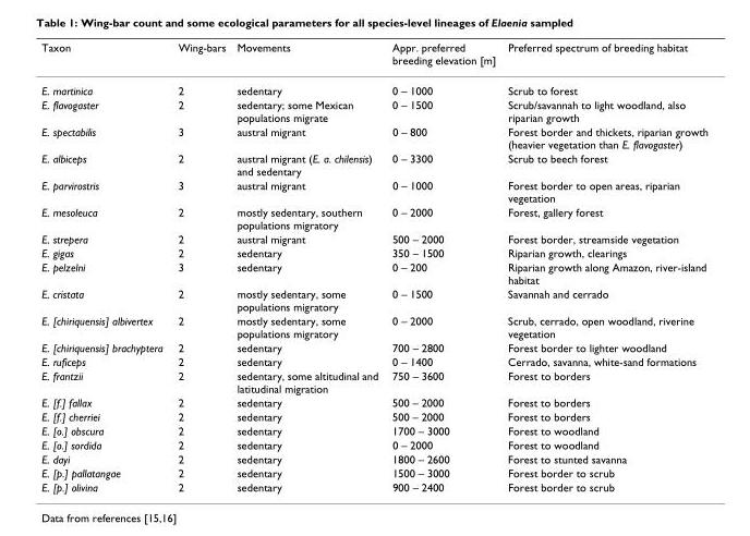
<table><thead><tr><td>Taxon</td><td>Wing-bars</td><td>Movements</td><td>Appr. preferred breeding elevation [m]</td><td>Preferred spectrum of breeding habitat</td></tr></thead><tbody><tr><td>E. martinica</td><td>2</td><td>sedentary</td><td>0 – 1000</td><td>Scrub to forest</td></tr><tr><td>E. flavogaster</td><td>2</td><td>sedentary; some Mexican populations migrate</td><td>0 – 1500</td><td>Scrub/savannah to light woodland, also riparian growth</td></tr><tr><td>E. spectabilis</td><td>3</td><td>austral migrant</td><td>0 – 800</td><td>Forest border and thickets, riparian growth (heavier vegetation than E. flavogaster)</td></tr><tr><td>E. albiceps</td><td>2</td><td>austral migrant (E. a. chilensis) and sedentary</td><td>0 – 3300</td><td>Scrub to beech forest</td></tr><tr><td>E. parvirostris</td><td>3</td><td>austral migrant</td><td>0 – 1000</td><td>Forest border to open areas, riparian vegetation</td></tr><tr><td>E. mesoleuca</td><td>2</td><td>mostly sedentary, southern populations migratory</td><td>0 – 2000</td><td>Forest, gallery forest</td></tr><tr><td>E. strepera</td><td>2</td><td>austral migrant</td><td>500 – 2000</td><td>Forest border, streamside vegetation</td></tr><tr><td>E. gigas</td><td>2</td><td>sedentary</td><td>350 – 1500</td><td>Riparian growth, clearings</td></tr><tr><td>E. pelzelni</td><td>3</td><td>sedentary</td><td>0 – 200</td><td>Riparian growth along Amazon, river-island habitat</td></tr><tr><td>E. cristata</td><td>2</td><td>mostly sedentary, some populations migratory</td><td>0 – 1500</td><td>Savannah and cerrado</td></tr><tr><td>E. [chiriquensis] albivertex</td><td>2</td><td>mostly sedentary, some populations migratory</td><td>0 – 2000</td><td>Scrub, cerrado, open woodland, riverine vegetation</td></tr><tr><td>E. [chiriquensis] brachyptera</td><td>2</td><td>sedentary</td><td>700 – 2800</td><td>Forest border to lighter woodland</td></tr><tr><td>E. ruficeps</td><td>2</td><td>sedentary</td><td>0 – 1400</td><td>Cerrado, savanna, white-sand formations</td></tr><tr><td>E. frantzii</td><td>2</td><td>sedentary, some altitudinal and latitudinal migration</td><td>750 – 3600</td><td>Forest to borders</td></tr><tr><td>E. [f.] fallax</td><td>2</td><td>sedentary</td><td>500 – 2000</td><td>Forest to borders</td></tr><tr><td>E. [f.] cherriei</td><td>2</td><td>sedentary</td><td>500 – 2000</td><td>Forest to borders</td></tr><tr><td>E. [o.] obscura</td><td>2</td><td>sedentary</td><td>1700 – 3000</td><td>Forest to woodland</td></tr><tr><td>E. [o.] sordida</td><td>2</td><td>sedentary</td><td>0 – 2000</td><td>Forest to woodland</td></tr><tr><td>E. dayi</td><td>2</td><td>sedentary</td><td>1800 – 2600</td><td>Forest to stunted savanna</td></tr><tr><td>E. [p.] pallatangae</td><td>2</td><td>sedentary</td><td>1500 – 3000</td><td>Forest border to scrub</td></tr><tr><td>E. [p.] olivina</td><td>2</td><td>sedentary</td><td>900 – 2400</td><td>Forest border to scrub</td></tr></tbody></table>